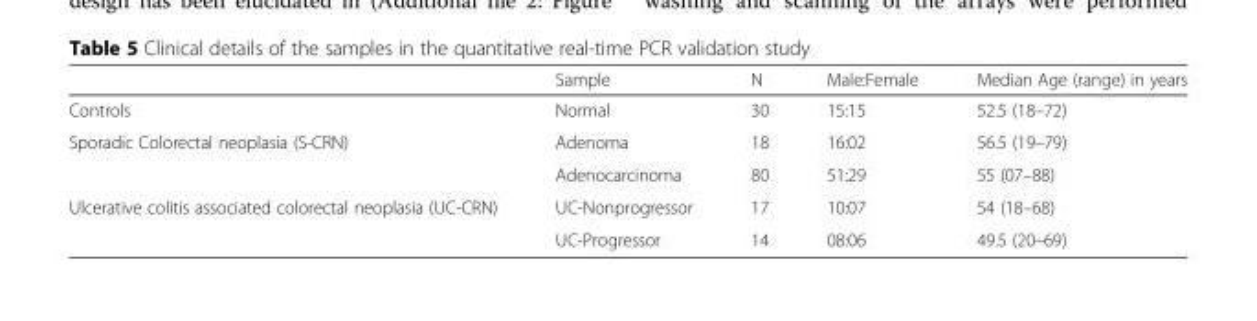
<table><thead><tr><td></td><td>Sample</td><td>N</td><td>Male:Female</td><td>Median Age (range) in years</td></tr></thead><tbody><tr><td>Controls</td><td>Normal</td><td>30</td><td>15:15</td><td>52.5 (18–72)</td></tr><tr><td rowspan="2">Sporadic Colorectal neoplasia (S-CRN)</td><td>Adenoma</td><td>18</td><td>16:02</td><td>56.5 (19–79)</td></tr><tr><td>Adenocarcinoma</td><td>80</td><td>51:29</td><td>55 (07–88)</td></tr><tr><td rowspan="2">Ulcerative colitis associated colorectal neoplasia (UC-CRN)</td><td>UC-Nonprogressor</td><td>17</td><td>10:07</td><td>54 (18–68)</td></tr><tr><td>UC-Progressor</td><td>14</td><td>08:06</td><td>49.5 (20–69)</td></tr></tbody></table>